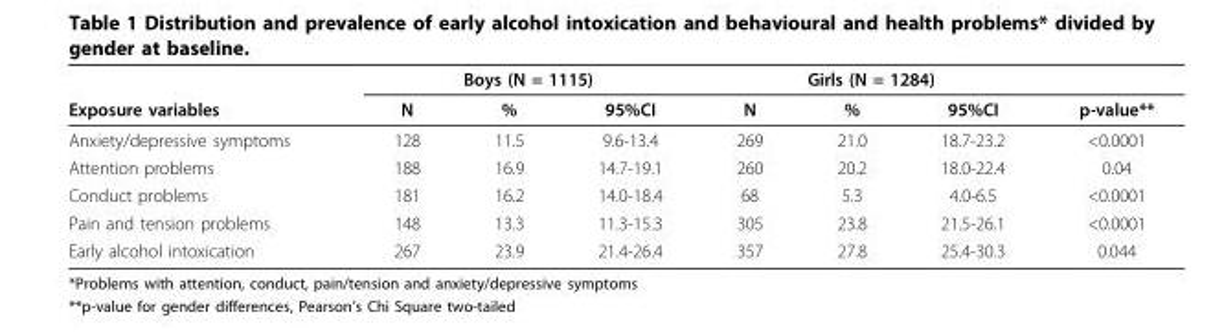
<table><thead><tr><td rowspan="2">Exposure variables</td><td colspan="3">Boys (N = 1115)</td><td colspan="3">Girls (N = 1284)</td><td rowspan="2">p-value**</td></tr><tr><td>N</td><td>%</td><td>95%CI</td><td>N</td><td>%</td><td>95%CI</td></tr></thead><tbody><tr><td>Anxiety/depressive symptoms</td><td>128</td><td>11.5</td><td>9.6-13.4</td><td>269</td><td>21.0</td><td>18.7-23.2</td><td>&lt;0.0001</td></tr><tr><td>Attention problems</td><td>188</td><td>16.9</td><td>14.7-19.1</td><td>260</td><td>20.2</td><td>18.0-22.4</td><td>0.04</td></tr><tr><td>Conduct problems</td><td>181</td><td>16.2</td><td>14.0-18.4</td><td>68</td><td>5.3</td><td>4.0-6.5</td><td>&lt;0.0001</td></tr><tr><td>Pain and tension problems</td><td>148</td><td>13.3</td><td>11.3-15.3</td><td>305</td><td>23.8</td><td>21.5-26.1</td><td>&lt;0.0001</td></tr><tr><td>Early alcohol intoxication</td><td>267</td><td>23.9</td><td>21.4-26.4</td><td>357</td><td>27.8</td><td>25.4-30.3</td><td>0.044</td></tr></tbody></table>